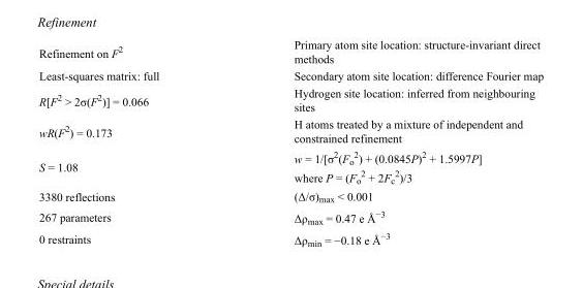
<table><tbody><tr><td>Refinement on F<sup>2</sup></td><td>Primary atom site location: structure-invariant direct methods</td></tr><tr><td>Least-squares matrix: full</td><td>Secondary atom site location: difference Fourier map</td></tr><tr><td>R[F<sup>2</sup> &gt; 2σ(F<sup>2</sup>)] = 0.066</td><td>Hydrogen site location: inferred from neighbouring sites</td></tr><tr><td>wR(F<sup>2</sup>) = 0.173</td><td>H atoms treated by a mixture of independent and constrained refinement</td></tr><tr><td>S = 1.08</td><td>w = 1/[σ<sup>2</sup>(F<sub>o</sub> <sup>2</sup>) + (0.0845P)<sup>2</sup> + 1.5997P] where P = (F<sub>o</sub> <sup>2</sup> + 2F<sub>c</sub> <sup>2</sup>)/3</td></tr><tr><td>3380 reflections</td><td>(Δ/σ)<sub>max</sub> &lt; 0.001</td></tr><tr><td>267 parameters</td><td>Δρ<sub>max</sub> = 0.47 e Å<sup>−3</sup></td></tr><tr><td>0 restraints</td><td>Δρ<sub>min</sub> = −0.18 e Å<sup>−3</sup></td></tr></tbody></table>